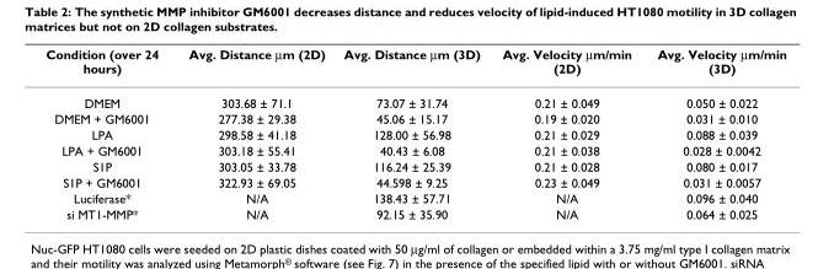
<table><thead><tr><td>Condition (over 24 hours)</td><td>Avg. Distance μm (2D)</td><td>Avg. Distance μm (3D)</td><td>Avg. Velocity μm/min (2D)</td><td>Avg. Velocity μm/min (3D)</td></tr></thead><tbody><tr><td>DMEM</td><td>303.68 ± 71.1</td><td>73.07 ± 31.74</td><td>0.21 ± 0.049</td><td>0.050 ± 0.022</td></tr><tr><td>DMEM + GM6001</td><td>277.38 ± 29.38</td><td>45.06 ± 15.17</td><td>0.19 ± 0.020</td><td>0.031 ± 0.010</td></tr><tr><td>LPA</td><td>298.58 ± 41.18</td><td>128.00 ± 56.98</td><td>0.21 ± 0.029</td><td>0.088 ± 0.039</td></tr><tr><td>LPA + GM6001</td><td>303.18 ± 55.41</td><td>40.43 ± 6.08</td><td>0.21 ± 0.038</td><td>0.028 ± 0.0042</td></tr><tr><td>S1P</td><td>303.05 ± 33.78</td><td>116.24 ± 25.39</td><td>0.21 ± 0.028</td><td>0.080 ± 0.017</td></tr><tr><td>S1P + GM6001</td><td>322.93 ± 69.05</td><td>44.598 ± 9.25</td><td>0.23 ± 0.049</td><td>0.031 ± 0.0057</td></tr><tr><td>Luciferase*</td><td>N/A</td><td>138.43 ± 57.71</td><td>N/A</td><td>0.096 ± 0.040</td></tr><tr><td>si MT1-MMP*</td><td>N/A</td><td>92.15 ± 35.90</td><td>N/A</td><td>0.064 ± 0.025</td></tr></tbody></table>